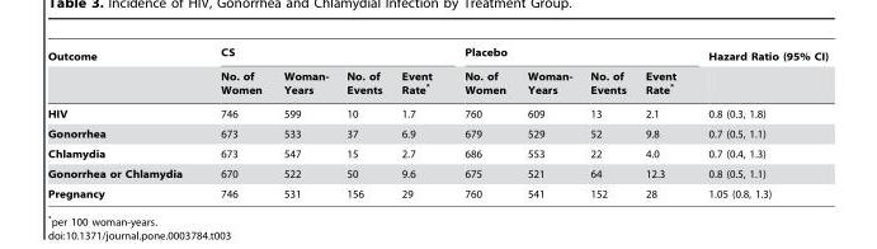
<table><thead><tr><td rowspan="2">Outcome</td><td colspan="4">CS</td><td colspan="4">Placebo</td><td rowspan="2">Hazard Ratio (95% CI)</td></tr><tr><td>No. of Women</td><td>Woman- Years</td><td>No. of Events</td><td>Event Rate*</td><td>No. of Women</td><td>Woman- Years</td><td>No. of Events</td><td>Event Rate*</td></tr></thead><tbody><tr><td>HIV</td><td>746</td><td>599</td><td>10</td><td>1.7</td><td>760</td><td>609</td><td>13</td><td>2.1</td><td>0.8 (0.3, 1.8)</td></tr><tr><td>Gonorrhea</td><td>673</td><td>533</td><td>37</td><td>6.9</td><td>679</td><td>529</td><td>52</td><td>9.8</td><td>0.7 (0.5, 1.1)</td></tr><tr><td>Chlamydia</td><td>673</td><td>547</td><td>15</td><td>2.7</td><td>686</td><td>553</td><td>22</td><td>4.0</td><td>0.7 (0.4, 1.3)</td></tr><tr><td>Gonorrhea or Chlamydia</td><td>670</td><td>522</td><td>50</td><td>9.6</td><td>675</td><td>521</td><td>64</td><td>12.3</td><td>0.8 (0.5, 1.1)</td></tr><tr><td>Pregnancy</td><td>746</td><td>531</td><td>156</td><td>29</td><td>760</td><td>541</td><td>152</td><td>28</td><td>1.05 (0.8, 1.3)</td></tr></tbody></table>